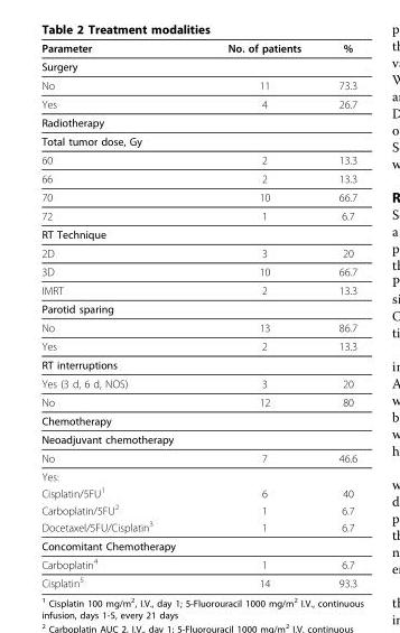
<table><thead><tr><td>Parameter</td><td>No. of patients</td><td>%</td></tr></thead><tbody><tr><td colspan="3">Surgery</td></tr><tr><td>No</td><td>11</td><td>73.3</td></tr><tr><td>Yes</td><td>4</td><td>26.7</td></tr><tr><td colspan="3">Radiotherapy</td></tr><tr><td colspan="3">Total tumor dose, Gy</td></tr><tr><td>60</td><td>2</td><td>13.3</td></tr><tr><td>66</td><td>2</td><td>13.3</td></tr><tr><td>70</td><td>10</td><td>66.7</td></tr><tr><td>72</td><td>1</td><td>6.7</td></tr><tr><td colspan="3">RT Technique</td></tr><tr><td>2D</td><td>3</td><td>20</td></tr><tr><td>3D</td><td>10</td><td>66.7</td></tr><tr><td>IMRT</td><td>2</td><td>13.3</td></tr><tr><td colspan="3">Parotid sparing</td></tr><tr><td>No</td><td>13</td><td>86.7</td></tr><tr><td>Yes</td><td>2</td><td>13.3</td></tr><tr><td colspan="3">RT interruptions</td></tr><tr><td>Yes (3 d, 6 d, NOS)</td><td>3</td><td>20</td></tr><tr><td>No</td><td>12</td><td>80</td></tr><tr><td colspan="3">Chemotherapy</td></tr><tr><td colspan="3">Neoadjuvant chemotherapy</td></tr><tr><td>No</td><td>7</td><td>46.6</td></tr><tr><td colspan="3">Yes:</td></tr><tr><td>Cisplatin/5FU<sup>1</sup></td><td>6</td><td>40</td></tr><tr><td>Carboplatin/5FU<sup>2</sup></td><td>1</td><td>6.7</td></tr><tr><td>Docetaxel/5FU/Cisplatin<sup>3</sup></td><td>1</td><td>6.7</td></tr><tr><td colspan="3">Concomitant Chemotherapy</td></tr><tr><td>Carboplatin<sup>4</sup></td><td>1</td><td>6.7</td></tr><tr><td>Cisplatin<sup>5</sup></td><td>14</td><td>93.3</td></tr></tbody></table>